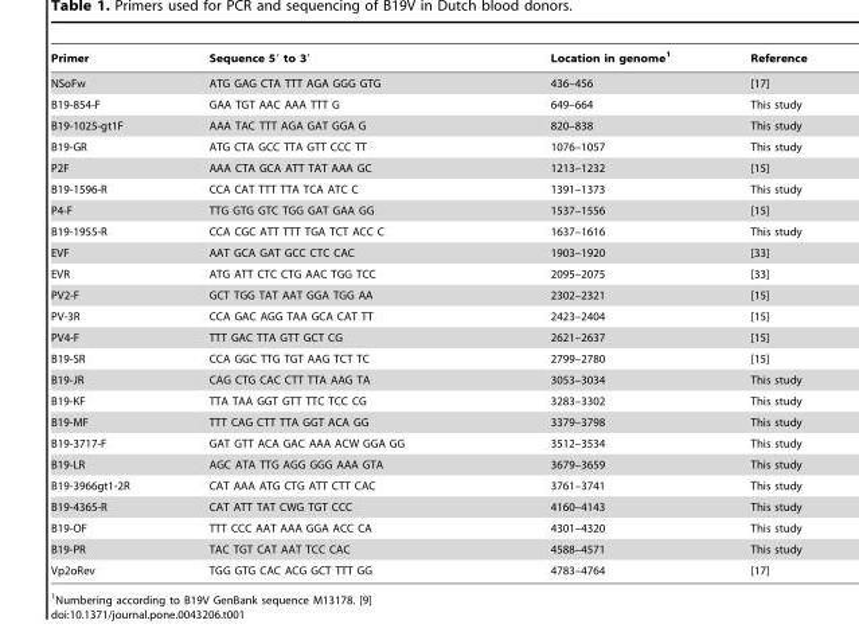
<table><thead><tr><td>Primer</td><td>Sequence 5′ to 3′</td><td>Location in genome<sup>1</sup></td><td>Reference</td></tr></thead><tbody><tr><td>NSoFw</td><td>ATG GAG CTA TTT AGA GGG GTG</td><td>436–456</td><td>[17]</td></tr><tr><td>B19-854-F</td><td>GAA TGT AAC AAA TTT G</td><td>649–664</td><td>This study</td></tr><tr><td>B19-1025-gt1F</td><td>AAA TAC TTT AGA GAT GGA G</td><td>820–838</td><td>This study</td></tr><tr><td>B19-GR</td><td>ATG CTA GCC TTA GTT CCC TT</td><td>1076–1057</td><td>This study</td></tr><tr><td>P2F</td><td>AAA CTA GCA ATT TAT AAA GC</td><td>1213–1232</td><td>[15]</td></tr><tr><td>B19-1596-R</td><td>CCA CAT TTT TTA TCA ATC C</td><td>1391–1373</td><td>This study</td></tr><tr><td>P4-F</td><td>TTG GTG GTC TGG GAT GAA GG</td><td>1537–1556</td><td>[15]</td></tr><tr><td>B19-1955-R</td><td>CCA CGC ATT TTT TGA TCT ACC C</td><td>1637–1616</td><td>This study</td></tr><tr><td>EVF</td><td>AAT GCA GAT GCC CTC CAC</td><td>1903–1920</td><td>[33]</td></tr><tr><td>EVR</td><td>ATG ATT CTC CTG AAC TGG TCC</td><td>2095–2075</td><td>[33]</td></tr><tr><td>PV2-F</td><td>GCT TGG TAT AAT GGA TGG AA</td><td>2302–2321</td><td>[15]</td></tr><tr><td>PV-3R</td><td>CCA GAC AGG TAA GCA CAT TT</td><td>2423–2404</td><td>[15]</td></tr><tr><td>PV4-F</td><td>TTT GAC TTA GTT GCT CG</td><td>2621–2637</td><td>[15]</td></tr><tr><td>B19-SR</td><td>CCA GGC TTG TGT AAG TCT TC</td><td>2799–2780</td><td>[15]</td></tr><tr><td>B19-JR</td><td>CAG CTG CAC CTT TTA AAG TA</td><td>3053–3034</td><td>This study</td></tr><tr><td>B19-KF</td><td>TTA TAA GGT GTT TTC TCC CG</td><td>3283–3302</td><td>This study</td></tr><tr><td>B19-MF</td><td>TTT CAG CTT TTA GGT ACA GG</td><td>3379–3798</td><td>This study</td></tr><tr><td>B19-3717-F</td><td>GAT GTT ACA GAC AAA ACW GGA GG</td><td>3512–3534</td><td>This study</td></tr><tr><td>B19-LR</td><td>AGC ATA TTG AGG GGG AAA GTA</td><td>3679–3659</td><td>This study</td></tr><tr><td>B19-3966gt1-2R</td><td>CAT AAA ATG CTG ATT CTT CAC</td><td>3761–3741</td><td>This study</td></tr><tr><td>B19-4365-R</td><td>CAT ATT TAT CWG TGT CCC</td><td>4160–4143</td><td>This study</td></tr><tr><td>B19-OF</td><td>TTT CCC AAT AAA GGA ACC CA</td><td>4301–4320</td><td>This study</td></tr><tr><td>B19-PR</td><td>TAC TGT CAT AAT TCC CAC</td><td>4588–4571</td><td>This study</td></tr><tr><td>Vp2oRev</td><td>TGG GTG CAC ACG GCT TTT GG</td><td>4783–4764</td><td>[17]</td></tr></tbody></table>